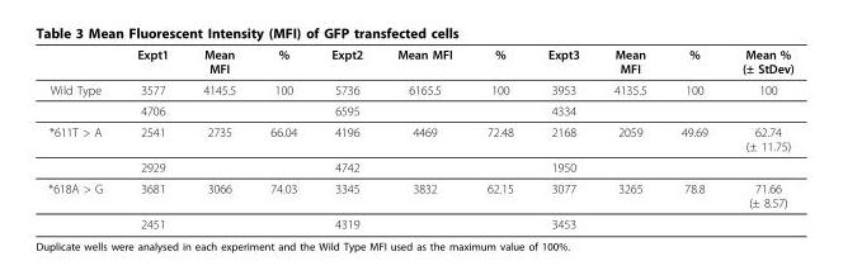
<table><thead><tr><td></td><td>Expt1</td><td>Mean MFI</td><td>%</td><td>Expt2</td><td>Mean MFI</td><td>%</td><td>Expt3</td><td>Mean MFI</td><td>%</td><td>Mean % (± StDev)</td></tr></thead><tbody><tr><td rowspan="2">Wild Type</td><td>3577</td><td>4145.5</td><td>100</td><td>5736</td><td>6165.5</td><td>100</td><td>3953</td><td>4135.5</td><td>100</td><td>100</td></tr><tr><td>4706</td><td></td><td></td><td>6595</td><td></td><td></td><td>4334</td><td></td><td></td><td></td></tr><tr><td rowspan="2">*611T &gt; A</td><td>2541</td><td>2735</td><td>66.04</td><td>4196</td><td>4469</td><td>72.48</td><td>2168</td><td>2059</td><td>49.69</td><td>62.74 (± 11.75)</td></tr><tr><td>2929</td><td></td><td></td><td>4742</td><td></td><td></td><td>1950</td><td></td><td></td><td></td></tr><tr><td rowspan="2">*618A &gt; G</td><td>3681</td><td>3066</td><td>74.03</td><td>3345</td><td>3832</td><td>62.15</td><td>3077</td><td>3265</td><td>78.8</td><td>71.66 (± 8.57)</td></tr><tr><td>2451</td><td></td><td></td><td>4319</td><td></td><td></td><td>3453</td><td></td><td></td><td></td></tr></tbody></table>